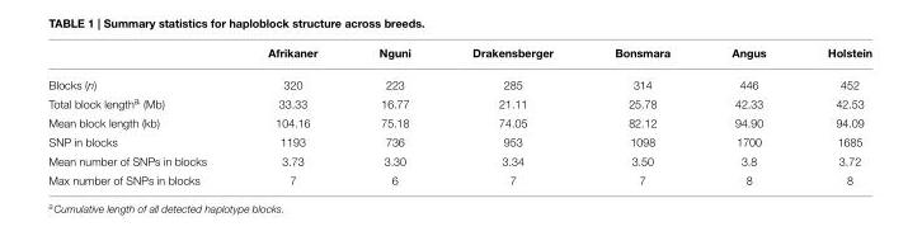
<table><thead><tr><td></td><td>Afrikaner</td><td>Nguni</td><td>Drakensberger</td><td>Bonsmara</td><td>Angus</td><td>Holstein</td></tr></thead><tbody><tr><td>Blocks (n)</td><td>320</td><td>223</td><td>285</td><td>314</td><td>446</td><td>452</td></tr><tr><td>Total block length<sup>a</sup> (Mb)</td><td>33.33</td><td>16.77</td><td>21.11</td><td>25.78</td><td>42.33</td><td>42.53</td></tr><tr><td>Mean block length (kb)</td><td>104.16</td><td>75.18</td><td>74.05</td><td>82.12</td><td>94.90</td><td>94.09</td></tr><tr><td>SNP in blocks</td><td>1193</td><td>736</td><td>953</td><td>1098</td><td>1700</td><td>1685</td></tr><tr><td>Mean number of SNPs in blocks</td><td>3.73</td><td>3.30</td><td>3.34</td><td>3.50</td><td>3.8</td><td>3.72</td></tr><tr><td>Max number of SNPs in blocks</td><td>7</td><td>6</td><td>7</td><td>7</td><td>8</td><td>8</td></tr></tbody></table>